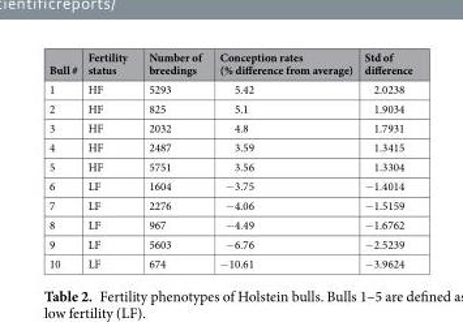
<table><thead><tr><td>Bull #</td><td>Fertility status</td><td>Number of breedings</td><td>Conception rates (% difference from average)</td><td>Std of difference</td></tr></thead><tbody><tr><td>1</td><td>HF</td><td>5293</td><td>5.42</td><td>2.0238</td></tr><tr><td>2</td><td>HF</td><td>825</td><td>5.1</td><td>1.9034</td></tr><tr><td>3</td><td>HF</td><td>2032</td><td>4.8</td><td>1.7931</td></tr><tr><td>4</td><td>HF</td><td>2487</td><td>3.59</td><td>1.3415</td></tr><tr><td>5</td><td>HF</td><td>5751</td><td>3.56</td><td>1.3304</td></tr><tr><td>6</td><td>LF</td><td>1604</td><td>−3.75</td><td>−1.4014</td></tr><tr><td>7</td><td>LF</td><td>2276</td><td>−4.06</td><td>−1.5159</td></tr><tr><td>8</td><td>LF</td><td>967</td><td>−4.49</td><td>−1.6762</td></tr><tr><td>9</td><td>LF</td><td>5603</td><td>−6.76</td><td>−2.5239</td></tr><tr><td>10</td><td>LF</td><td>674</td><td>−10.61</td><td>−3.9624</td></tr></tbody></table>